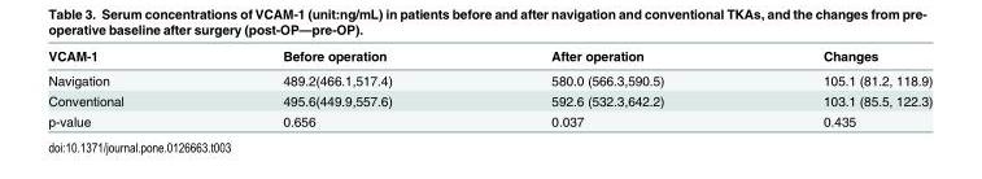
<table><thead><tr><td>VCAM-1</td><td>Before operation</td><td>After operation</td><td>Changes</td></tr></thead><tbody><tr><td>Navigation</td><td>489.2(466.1,517.4)</td><td>580.0 (566.3,590.5)</td><td>105.1 (81.2, 118.9)</td></tr><tr><td>Conventional</td><td>495.6(449.9,557.6)</td><td>592.6 (532.3,642.2)</td><td>103.1 (85.5, 122.3)</td></tr><tr><td>p-value</td><td>0.656</td><td>0.037</td><td>0.435</td></tr></tbody></table>